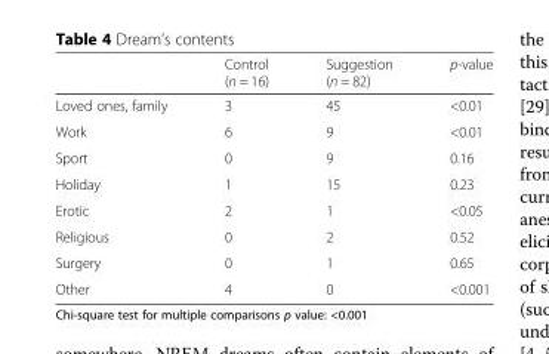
<table><thead><tr><td></td><td>Control (n = 16)</td><td>Suggestion (n = 82)</td><td>p-value</td></tr></thead><tbody><tr><td>Loved ones, family</td><td>3</td><td>45</td><td>&lt;0.01</td></tr><tr><td>Work</td><td>6</td><td>9</td><td>&lt;0.01</td></tr><tr><td>Sport</td><td>0</td><td>9</td><td>0.16</td></tr><tr><td>Holiday</td><td>1</td><td>15</td><td>0.23</td></tr><tr><td>Erotic</td><td>2</td><td>1</td><td>&lt;0.05</td></tr><tr><td>Religious</td><td>0</td><td>2</td><td>0.52</td></tr><tr><td>Surgery</td><td>0</td><td>1</td><td>0.65</td></tr><tr><td>Other</td><td>4</td><td>0</td><td>&lt;0.001</td></tr></tbody></table>